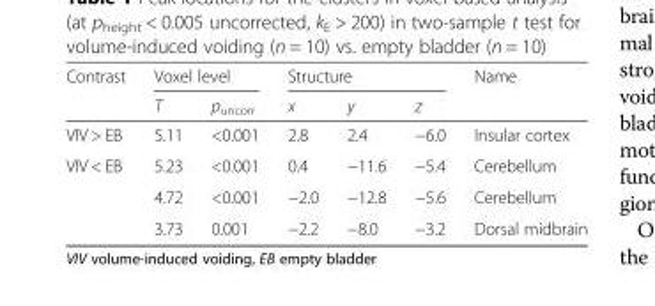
<table><thead><tr><td rowspan="2">Contrast</td><td colspan="2">Voxel level</td><td colspan="3">Structure</td><td rowspan="2">Name</td></tr><tr><td>T</td><td>p<sub>uncorr</sub></td><td>x</td><td>y</td><td>z</td></tr></thead><tbody><tr><td>VIV &gt; EB</td><td>5.11</td><td>&lt;0.001</td><td>2.8</td><td>2.4</td><td>−6.0</td><td>Insular cortex</td></tr><tr><td rowspan="3">VIV &lt; EB</td><td>5.23</td><td>&lt;0.001</td><td>0.4</td><td>−11.6</td><td>−5.4</td><td>Cerebellum</td></tr><tr><td>4.72</td><td>&lt;0.001</td><td>−2.0</td><td>−12.8</td><td>−5.6</td><td>Cerebellum</td></tr><tr><td>3.73</td><td>0.001</td><td>−2.2</td><td>−8.0</td><td>−3.2</td><td>Dorsal midbrain</td></tr></tbody></table>